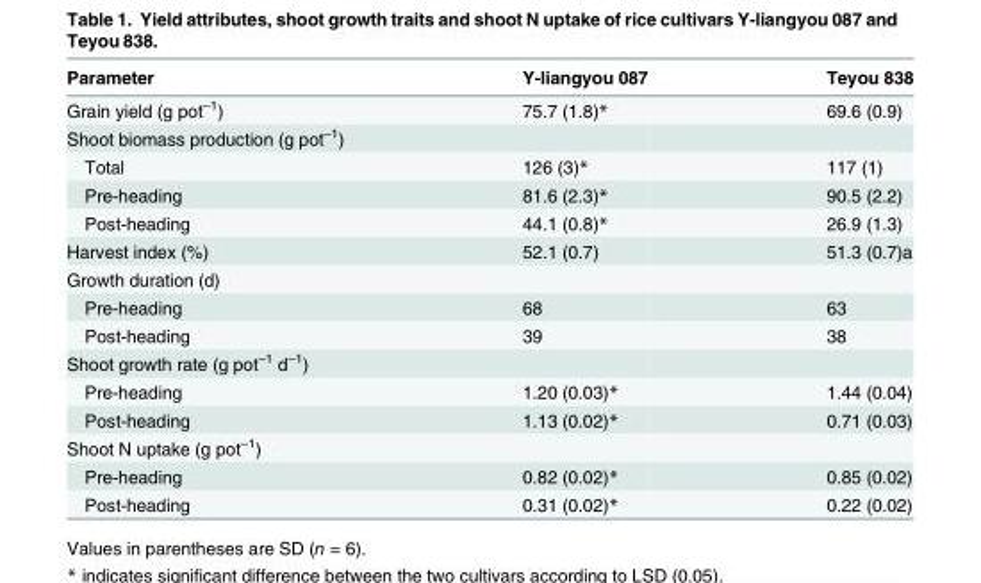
<table><thead><tr><td>Parameter</td><td>Y-liangyou 087</td><td>Teyou 838</td></tr></thead><tbody><tr><td>Grain yield (g pot<sup>–1</sup>)</td><td>75.7 (1.8)*</td><td>69.6 (0.9)</td></tr><tr><td colspan="3">Shoot biomass production (g pot<sup>–1</sup>)</td></tr><tr><td>Total</td><td>126 (3)*</td><td>117 (1)</td></tr><tr><td>Pre-heading</td><td>81.6 (2.3)*</td><td>90.5 (2.2)</td></tr><tr><td>Post-heading</td><td>44.1 (0.8)*</td><td>26.9 (1.3)</td></tr><tr><td>Harvest index (%)</td><td>52.1 (0.7)</td><td>51.3 (0.7)a</td></tr><tr><td colspan="3">Growth duration (d)</td></tr><tr><td>Pre-heading</td><td>68</td><td>63</td></tr><tr><td>Post-heading</td><td>39</td><td>38</td></tr><tr><td colspan="3">Shoot growth rate (g pot<sup>–1</sup> d<sup>–1</sup>)</td></tr><tr><td>Pre-heading</td><td>1.20 (0.03)*</td><td>1.44 (0.04)</td></tr><tr><td>Post-heading</td><td>1.13 (0.02)*</td><td>0.71 (0.03)</td></tr><tr><td colspan="3">Shoot N uptake (g pot<sup>–1</sup>)</td></tr><tr><td>Pre-heading</td><td>0.82 (0.02)*</td><td>0.85 (0.02)</td></tr><tr><td>Post-heading</td><td>0.31 (0.02)*</td><td>0.22 (0.02)</td></tr></tbody></table>